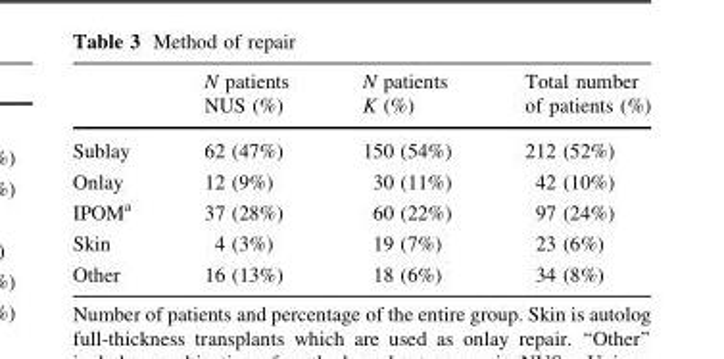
<table><thead><tr><td></td><td>N patients NUS (%)</td><td>N patients K (%)</td><td>Total number of patients (%)</td></tr></thead><tbody><tr><td>Sublay</td><td>62 (47%)</td><td>150 (54%)</td><td>212 (52%)</td></tr><tr><td>Onlay</td><td>12 (9%)</td><td>30 (11%)</td><td>42 (10%)</td></tr><tr><td>IPOM<sup>a</sup></td><td>37 (28%)</td><td>60 (22%)</td><td>97 (24%)</td></tr><tr><td>Skin</td><td>4 (3%)</td><td>19 (7%)</td><td>23 (6%)</td></tr><tr><td>Other</td><td>16 (13%)</td><td>18 (6%)</td><td>34 (8%)</td></tr></tbody></table>